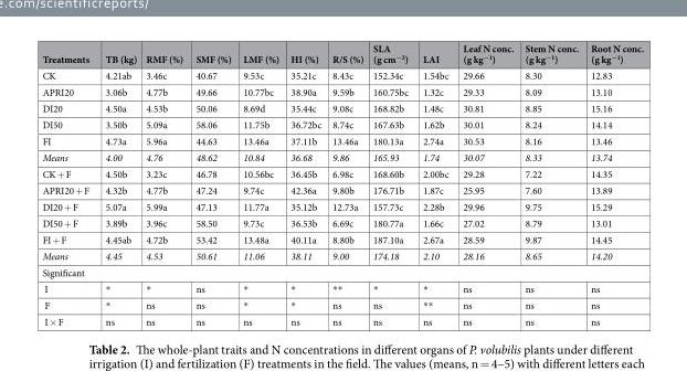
<table><thead><tr><td>Treatments</td><td>TB (kg)</td><td>RMF (%)</td><td>SMF (%)</td><td>LMF (%)</td><td>HI (%)</td><td>R/S (%)</td><td>SLA (g cm<sup>−2</sup>)</td><td>LAI</td><td>Leaf N conc. (g kg<sup>−1</sup>)</td><td>Stem N conc. (g kg<sup>−1</sup>)</td><td>Root N conc. (g kg<sup>−1</sup>)</td></tr></thead><tbody><tr><td>CK</td><td>4.21ab</td><td>3.46c</td><td>40.67</td><td>9.53c</td><td>35.21c</td><td>8.43c</td><td>152.34c</td><td>1.54bc</td><td>29.66</td><td>8.30</td><td>12.83</td></tr><tr><td>APRI20</td><td>3.06b</td><td>4.77b</td><td>49.66</td><td>10.77bc</td><td>38.90a</td><td>9.59b</td><td>160.75bc</td><td>1.32c</td><td>29.33</td><td>8.09</td><td>13.10</td></tr><tr><td>DI20</td><td>4.50a</td><td>4.53b</td><td>50.06</td><td>8.69d</td><td>35.44c</td><td>9.08c</td><td>168.82b</td><td>1.48c</td><td>30.81</td><td>8.85</td><td>15.16</td></tr><tr><td>DI50</td><td>3.50b</td><td>5.09a</td><td>58.06</td><td>11.75b</td><td>36.72bc</td><td>8.74c</td><td>167.63b</td><td>1.62b</td><td>30.01</td><td>8.24</td><td>14.14</td></tr><tr><td>FI</td><td>4.73a</td><td>5.96a</td><td>44.63</td><td>13.46a</td><td>37.11b</td><td>13.46a</td><td>180.13a</td><td>2.74a</td><td>30.53</td><td>8.16</td><td>13.46</td></tr><tr><td>Means</td><td>4.00</td><td>4.76</td><td>48.62</td><td>10.84</td><td>36.68</td><td>9.86</td><td>165.93</td><td>1.74</td><td>30.07</td><td>8.33</td><td>13.74</td></tr><tr><td>CK + F</td><td>4.50b</td><td>3.23c</td><td>46.78</td><td>10.56bc</td><td>36.45b</td><td>6.98c</td><td>168.60b</td><td>2.00bc</td><td>29.28</td><td>7.22</td><td>14.35</td></tr><tr><td>APRI20 + F</td><td>4.32b</td><td>4.77b</td><td>47.24</td><td>9.74c</td><td>42.36a</td><td>9.80b</td><td>176.71b</td><td>1.87c</td><td>25.95</td><td>7.60</td><td>13.89</td></tr><tr><td>DI20 + F</td><td>5.07a</td><td>5.99a</td><td>47.13</td><td>11.77a</td><td>35.12b</td><td>12.73a</td><td>157.73c</td><td>2.28b</td><td>29.96</td><td>9.75</td><td>15.29</td></tr><tr><td>DI50 + F</td><td>3.89b</td><td>3.96c</td><td>58.50</td><td>9.73c</td><td>36.53b</td><td>6.69c</td><td>180.77a</td><td>1.66c</td><td>27.02</td><td>8.79</td><td>13.01</td></tr><tr><td>FI + F</td><td>4.45ab</td><td>4.72b</td><td>53.42</td><td>13.48a</td><td>40.11a</td><td>8.80b</td><td>187.10a</td><td>2.67a</td><td>28.59</td><td>9.87</td><td>14.45</td></tr><tr><td>Means</td><td>4.45</td><td>4.53</td><td>50.61</td><td>11.06</td><td>38.11</td><td>9.00</td><td>174.18</td><td>2.10</td><td>28.16</td><td>8.65</td><td>14.20</td></tr><tr><td colspan="12">Significant</td></tr><tr><td>I</td><td>*</td><td>*</td><td>ns</td><td>*</td><td>*</td><td>**</td><td>*</td><td>*</td><td>ns</td><td>ns</td><td>ns</td></tr><tr><td>F</td><td>*</td><td>ns</td><td>ns</td><td>*</td><td>*</td><td>ns</td><td>ns</td><td>**</td><td>ns</td><td>ns</td><td>ns</td></tr><tr><td>I × F</td><td>ns</td><td>ns</td><td>ns</td><td>ns</td><td>ns</td><td>ns</td><td>ns</td><td>ns</td><td>ns</td><td>ns</td><td>ns</td></tr></tbody></table>